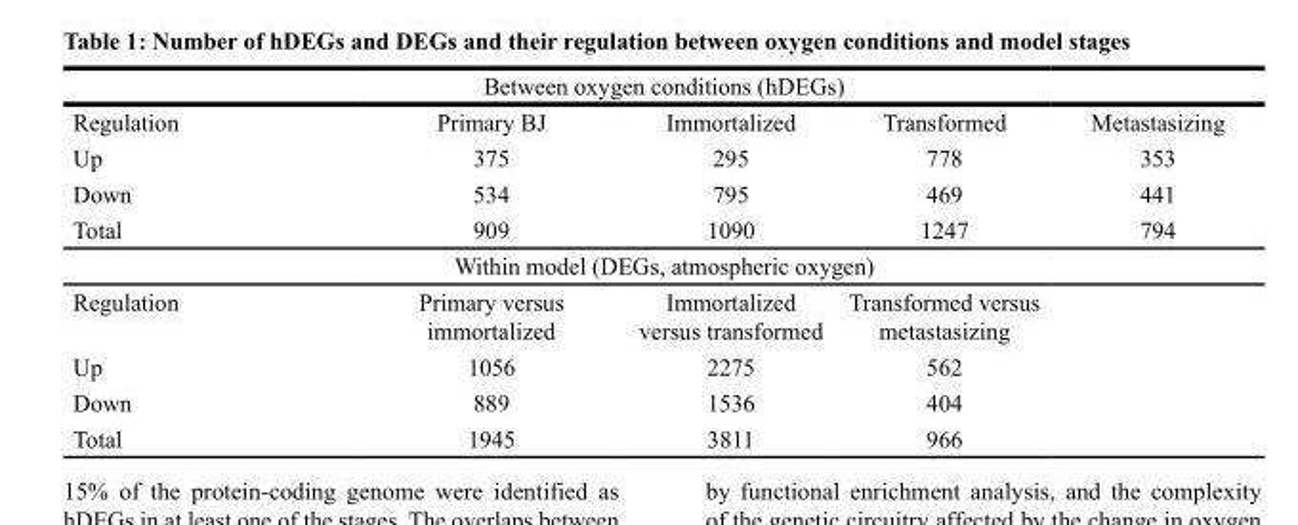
<table><thead><tr><td colspan="5">Between oxygen conditions (hDEGs)</td></tr><tr><td>Regulation</td><td>Primary BJ</td><td>Immortalized</td><td>Transformed</td><td>Metastasizing</td></tr></thead><tbody><tr><td>Up</td><td>375</td><td>295</td><td>778</td><td>353</td></tr><tr><td>Down</td><td>534</td><td>795</td><td>469</td><td>441</td></tr><tr><td>Total</td><td>909</td><td>1090</td><td>1247</td><td>794</td></tr><tr><td colspan="5">Within model (DEGs, atmospheric oxygen)</td></tr><tr><td>Regulation</td><td>Primary versus immortalized</td><td>Immortalized versus transformed</td><td>Transformed versus metastasizing</td><td></td></tr><tr><td>Up</td><td>1056</td><td>2275</td><td>562</td><td></td></tr><tr><td>Down</td><td>889</td><td>1536</td><td>404</td><td></td></tr><tr><td>Total</td><td>1945</td><td>3811</td><td>966</td><td></td></tr></tbody></table>